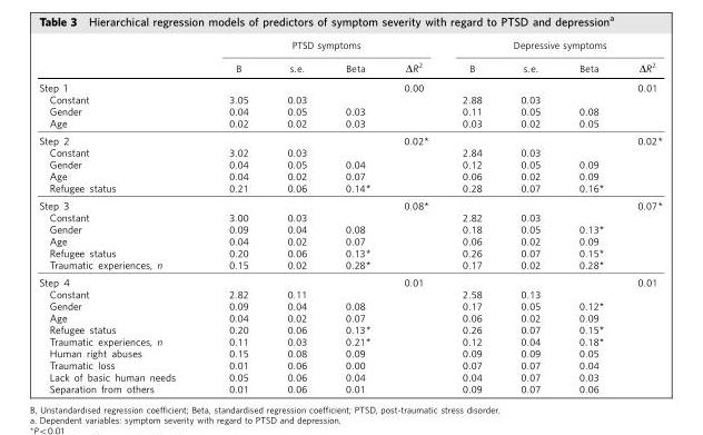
<table><thead><tr><td rowspan="2"></td><td colspan="4">PTSD symptoms</td><td colspan="4">Depressive symptoms</td></tr><tr><td>B</td><td>s.e.</td><td>Beta</td><td>ΔR<sup>2</sup></td><td>B</td><td>s.e.</td><td>Beta</td><td>ΔR<sup>2</sup></td></tr></thead><tbody><tr><td>Step 1</td><td></td><td></td><td></td><td>0.00</td><td></td><td></td><td></td><td>0.01</td></tr><tr><td>Constant</td><td>3.05</td><td>0.03</td><td></td><td></td><td>2.88</td><td>0.03</td><td></td><td></td></tr><tr><td>Gender</td><td>0.04</td><td>0.05</td><td>0.03</td><td></td><td>0.11</td><td>0.05</td><td>0.08</td><td></td></tr><tr><td>Age</td><td>0.02</td><td>0.02</td><td>0.03</td><td></td><td>0.03</td><td>0.02</td><td>0.05</td><td></td></tr><tr><td>Step 2</td><td></td><td></td><td></td><td>0.02*</td><td></td><td></td><td></td><td>0.02*</td></tr><tr><td>Constant</td><td>3.02</td><td>0.03</td><td></td><td></td><td>2.84</td><td>0.03</td><td></td><td></td></tr><tr><td>Gender</td><td>0.04</td><td>0.05</td><td>0.04</td><td></td><td>0.12</td><td>0.05</td><td>0.09</td><td></td></tr><tr><td>Age</td><td>0.04</td><td>0.02</td><td>0.07</td><td></td><td>0.06</td><td>0.02</td><td>0.09</td><td></td></tr><tr><td>Refugee status</td><td>0.21</td><td>0.06</td><td>0.14*</td><td></td><td>0.28</td><td>0.07</td><td>0.16*</td><td></td></tr><tr><td>Step 3</td><td></td><td></td><td></td><td>0.08*</td><td></td><td></td><td></td><td>0.07*</td></tr><tr><td>Constant</td><td>3.00</td><td>0.03</td><td></td><td></td><td>2.82</td><td>0.03</td><td></td><td></td></tr><tr><td>Gender</td><td>0.09</td><td>0.04</td><td>0.08</td><td></td><td>0.18</td><td>0.05</td><td>0.13*</td><td></td></tr><tr><td>Age</td><td>0.04</td><td>0.02</td><td>0.07</td><td></td><td>0.06</td><td>0.02</td><td>0.09</td><td></td></tr><tr><td>Refugee status</td><td>0.20</td><td>0.06</td><td>0.13*</td><td></td><td>0.26</td><td>0.07</td><td>0.15*</td><td></td></tr><tr><td>Traumatic experiences, n</td><td>0.15</td><td>0.02</td><td>0.28*</td><td></td><td>0.17</td><td>0.02</td><td>0.28*</td><td></td></tr><tr><td>Step 4</td><td></td><td></td><td></td><td>0.01</td><td></td><td></td><td></td><td>0.01</td></tr><tr><td>Constant</td><td>2.82</td><td>0.11</td><td></td><td></td><td>2.58</td><td>0.13</td><td></td><td></td></tr><tr><td>Gender</td><td>0.09</td><td>0.04</td><td>0.08</td><td></td><td>0.17</td><td>0.05</td><td>0.12*</td><td></td></tr><tr><td>Age</td><td>0.04</td><td>0.02</td><td>0.07</td><td></td><td>0.06</td><td>0.02</td><td>0.09</td><td></td></tr><tr><td>Refugee status</td><td>0.20</td><td>0.06</td><td>0.13*</td><td></td><td>0.26</td><td>0.07</td><td>0.15*</td><td></td></tr><tr><td>Traumatic experiences, n</td><td>0.11</td><td>0.03</td><td>0.21*</td><td></td><td>0.12</td><td>0.04</td><td>0.18*</td><td></td></tr><tr><td>Human right abuses</td><td>0.15</td><td>0.08</td><td>0.09</td><td></td><td>0.09</td><td>0.09</td><td>0.05</td><td></td></tr><tr><td>Traumatic loss</td><td>0.01</td><td>0.06</td><td>0.00</td><td></td><td>0.07</td><td>0.07</td><td>0.04</td><td></td></tr><tr><td>Lack of basic human needs</td><td>0.05</td><td>0.06</td><td>0.04</td><td></td><td>0.04</td><td>0.07</td><td>0.03</td><td></td></tr><tr><td>Separation from others</td><td>0.01</td><td>0.06</td><td>0.01</td><td></td><td>0.09</td><td>0.07</td><td>0.06</td><td></td></tr></tbody></table>